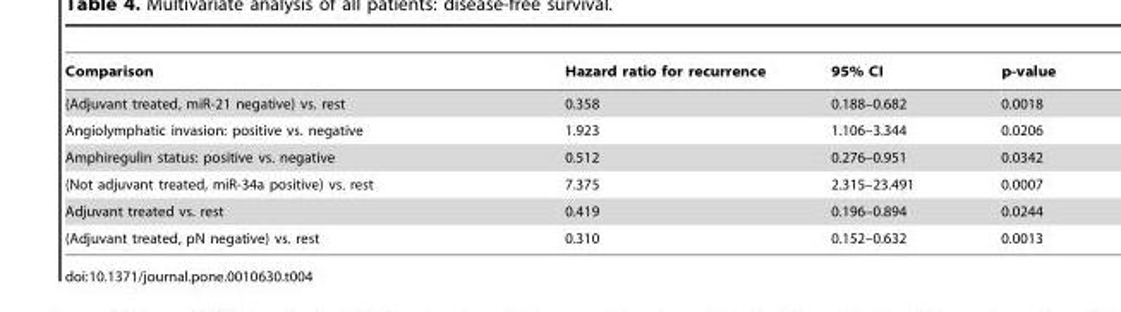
<table><thead><tr><td>Comparison</td><td>Hazard ratio for recurrence</td><td>95% CI</td><td>p-value</td></tr></thead><tbody><tr><td>(Adjuvant treated, miR-21 negative) vs. rest</td><td>0.358</td><td>0.188–0.682</td><td>0.0018</td></tr><tr><td>Angiolymphatic invasion: positive vs. negative</td><td>1.923</td><td>1.106–3.344</td><td>0.0206</td></tr><tr><td>Amphiregulin status: positive vs. negative</td><td>0.512</td><td>0.276–0.951</td><td>0.0342</td></tr><tr><td>(Not adjuvant treated, miR-34a positive) vs. rest</td><td>7.375</td><td>2.315–23.491</td><td>0.0007</td></tr><tr><td>Adjuvant treated vs. rest</td><td>0.419</td><td>0.196–0.894</td><td>0.0244</td></tr><tr><td>(Adjuvant treated, pN negative) vs. rest</td><td>0.310</td><td>0.152–0.632</td><td>0.0013</td></tr></tbody></table>